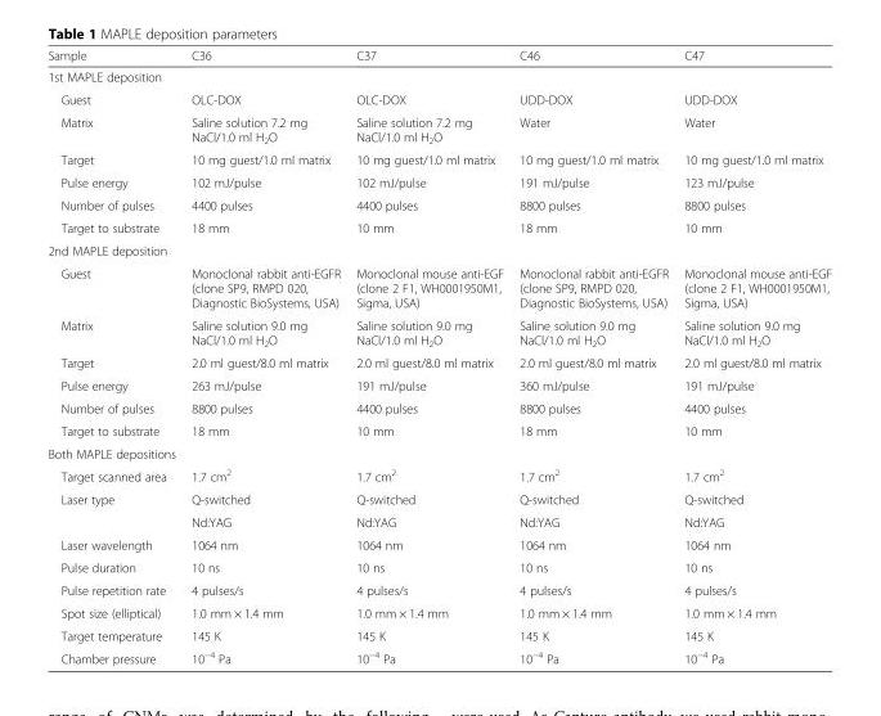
<table><thead><tr><td>Sample</td><td>C36</td><td>C37</td><td>C46</td><td>C47</td></tr></thead><tbody><tr><td colspan="5">1st MAPLE deposition</td></tr><tr><td>Guest</td><td>OLC-DOX</td><td>OLC-DOX</td><td>UDD-DOX</td><td>UDD-DOX</td></tr><tr><td>Matrix</td><td>Saline solution 7.2 mg NaCl/1.0 ml H<sub>2</sub>O</td><td>Saline solution 7.2 mg NaCl/1.0 ml H<sub>2</sub>O</td><td>Water</td><td>Water</td></tr><tr><td>Target</td><td>10 mg guest/1.0 ml matrix</td><td>10 mg guest/1.0 ml matrix</td><td>10 mg guest/1.0 ml matrix</td><td>10 mg guest/1.0 ml matrix</td></tr><tr><td>Pulse energy</td><td>102 mJ/pulse</td><td>102 mJ/pulse</td><td>191 mJ/pulse</td><td>123 mJ/pulse</td></tr><tr><td>Number of pulses</td><td>4400 pulses</td><td>4400 pulses</td><td>8800 pulses</td><td>8800 pulses</td></tr><tr><td>Target to substrate</td><td>18 mm</td><td>10 mm</td><td>18 mm</td><td>10 mm</td></tr><tr><td colspan="5">2nd MAPLE deposition</td></tr><tr><td>Guest</td><td>Monoclonal rabbit anti-EGFR (clone SP9, RMPD 020, Diagnostic BioSystems, USA)</td><td>Monoclonal mouse anti-EGF (clone 2 F1, WH0001950M1, Sigma, USA)</td><td>Monoclonal rabbit anti-EGFR (clone SP9, RMPD 020, Diagnostic BioSystems, USA)</td><td>Monoclonal mouse anti-EGF (clone 2 F1, WH0001950M1, Sigma, USA)</td></tr><tr><td>Matrix</td><td>Saline solution 9.0 mg NaCl/1.0 ml H<sub>2</sub>O</td><td>Saline solution 9.0 mg NaCl/1.0 ml H<sub>2</sub>O</td><td>Saline solution 9.0 mg NaCl/1.0 ml H<sub>2</sub>O</td><td>Saline solution 9.0 mg NaCl/1.0 ml H<sub>2</sub>O</td></tr><tr><td>Target</td><td>2.0 ml guest/8.0 ml matrix</td><td>2.0 ml guest/8.0 ml matrix</td><td>2.0 ml guest/8.0 ml matrix</td><td>2.0 ml guest/8.0 ml matrix</td></tr><tr><td>Pulse energy</td><td>263 mJ/pulse</td><td>191 mJ/pulse</td><td>360 mJ/pulse</td><td>191 mJ/pulse</td></tr><tr><td>Number of pulses</td><td>8800 pulses</td><td>4400 pulses</td><td>8800 pulses</td><td>4400 pulses</td></tr><tr><td>Target to substrate</td><td>18 mm</td><td>10 mm</td><td>18 mm</td><td>10 mm</td></tr><tr><td colspan="5">Both MAPLE depositions</td></tr><tr><td>Target scanned area</td><td>1.7 cm<sup>2</sup></td><td>1.7 cm<sup>2</sup></td><td>1.7 cm<sup>2</sup></td><td>1.7 cm<sup>2</sup></td></tr><tr><td rowspan="2">Laser type</td><td>Q-switched</td><td>Q-switched</td><td>Q-switched</td><td>Q-switched</td></tr><tr><td>Nd:YAG</td><td>Nd:YAG</td><td>Nd:YAG</td><td>Nd:YAG</td></tr><tr><td>Laser wavelength</td><td>1064 nm</td><td>1064 nm</td><td>1064 nm</td><td>1064 nm</td></tr><tr><td>Pulse duration</td><td>10 ns</td><td>10 ns</td><td>10 ns</td><td>10 ns</td></tr><tr><td>Pulse repetition rate</td><td>4 pulses/s</td><td>4 pulses/s</td><td>4 pulses/s</td><td>4 pulses/s</td></tr><tr><td>Spot size (elliptical)</td><td>1.0 mm × 1.4 mm</td><td>1.0 mm × 1.4 mm</td><td>1.0 mm × 1.4 mm</td><td>1.0 mm × 1.4 mm</td></tr><tr><td>Target temperature</td><td>145 K</td><td>145 K</td><td>145 K</td><td>145 K</td></tr><tr><td>Chamber pressure</td><td>10−4 Pa</td><td>10−4 Pa</td><td>10−4 Pa</td><td>10−4 Pa</td></tr></tbody></table>